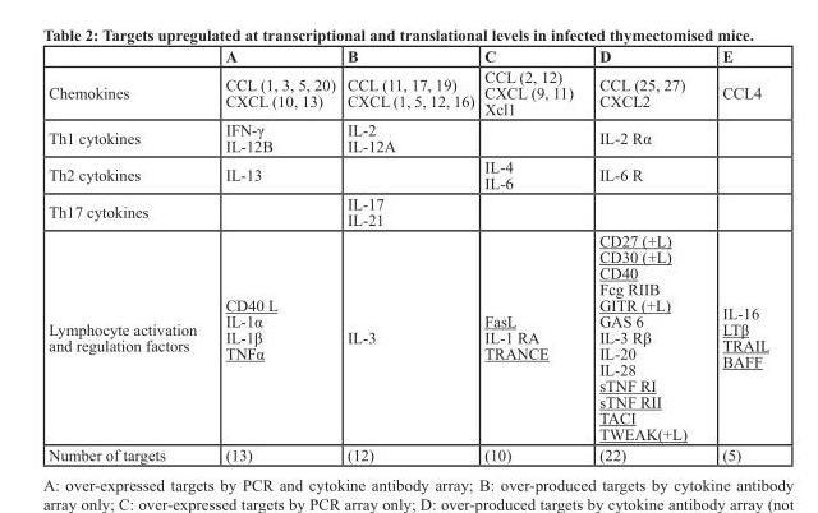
<table><thead><tr><td></td><td>A</td><td>B</td><td>C</td><td>D</td><td>E</td></tr></thead><tbody><tr><td>Chemokines</td><td>CCL (1, 3, 5, 20) CXCL (10, 13)</td><td>CCL (11, 17, 19) CXCL (1, 5, 12, 16)</td><td>CCL (2, 12) CXCL (9, 11) Xcl1</td><td>CCL (25, 27) CXCL2</td><td>CCL4</td></tr><tr><td>Th1 cytokines</td><td>IFN-γ IL-12B</td><td>IL-2 IL-12A</td><td></td><td>IL-2 Rα</td><td></td></tr><tr><td>Th2 cytokines</td><td>IL-13</td><td></td><td>IL-4 IL-6</td><td>IL-6 R</td><td></td></tr><tr><td>Th17 cytokines</td><td></td><td>IL-17 IL-21</td><td></td><td></td><td></td></tr><tr><td>Lymphocyte activation and regulation factors</td><td>CD40 L IL-1α IL-1β TNFα</td><td>IL-3</td><td>FasL IL-1 RA TRANCE</td><td>CD27 (+L) CD30 (+L) CD40 Fcg RIIB GITR (+L) GAS 6 IL-3 Rβ IL-20 IL-28 sTNF RI sTNF RII TACI TWEAK(+L)</td><td>IL-16 LTβ TRAIL BAFF</td></tr><tr><td>Number of targets</td><td>(13)</td><td>(12)</td><td>(10)</td><td>(22)</td><td>(5)</td></tr></tbody></table>